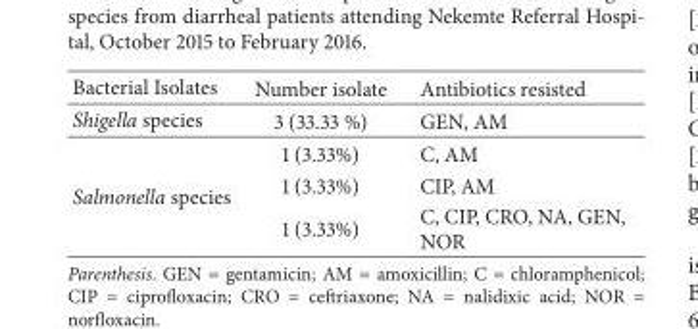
<table><thead><tr><td>Bacterial Isolates</td><td>Number isolate</td><td>Antibiotics resisted</td></tr></thead><tbody><tr><td>Shigella species</td><td>3 (33.33 %)</td><td>GEN, AM</td></tr><tr><td rowspan="3">Salmonella species</td><td>1 (3.33%)</td><td>C, AM</td></tr><tr><td>1 (3.33%)</td><td>CIP, AM</td></tr><tr><td>1 (3.33%)</td><td>C, CIP, CRO, NA, GEN, NOR</td></tr></tbody></table>